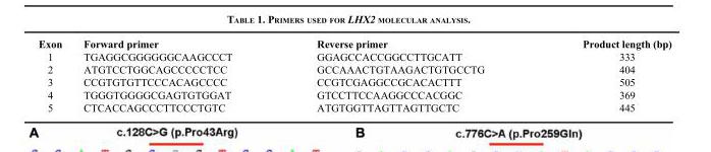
<table><thead><tr><td>Exon</td><td>Forward primer</td><td>Reverse primer</td><td>Product length (bp)</td></tr></thead><tbody><tr><td>1</td><td>TGAGGCGGGGGGCAAGCCCT</td><td>GGAGCCACCGGCCTTGCATT</td><td>333</td></tr><tr><td>2</td><td>ATGTCCTGGCAGCCCCCTCC</td><td>GCCAAACTGTAAGACTGTGCCTG</td><td>404</td></tr><tr><td>3</td><td>CCGTGTGTTCCCACAGCCCC</td><td>CCGTCGAGGCCGCACACTTT</td><td>505</td></tr><tr><td>4</td><td>TGGGTGGGGCGAGTGTGGAT</td><td>GTCCTTCCAAGGCCCACGGC</td><td>369</td></tr><tr><td>5</td><td>CTCACCAGCCCTTCCCTGTC</td><td>ATGTGGTTAGTTAGTTGCTC</td><td>445</td></tr></tbody></table>